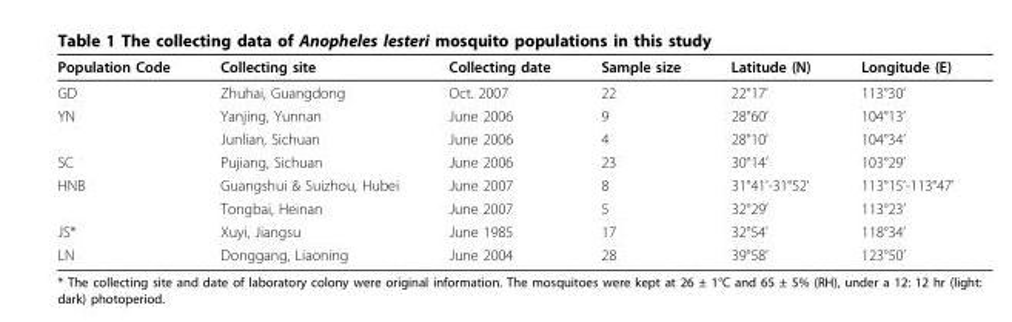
<table><thead><tr><td>Population Code</td><td>Collecting site</td><td>Collecting date</td><td>Sample size</td><td>Latitude (N)</td><td>Longitude (E)</td></tr></thead><tbody><tr><td>GD</td><td>Zhuhai, Guangdong</td><td>Oct. 2007</td><td>22</td><td>22°17’</td><td>113°30’</td></tr><tr><td rowspan="2">YN</td><td>Yanjing, Yunnan</td><td>June 2006</td><td>9</td><td>28°60’</td><td>104°13’</td></tr><tr><td>Junlian, Sichuan</td><td>June 2006</td><td>4</td><td>28°10’</td><td>104°34’</td></tr><tr><td>SC</td><td>Pujiang, Sichuan</td><td>June 2006</td><td>23</td><td>30°14’</td><td>103°29’</td></tr><tr><td rowspan="2">HNB</td><td>Guangshui &amp; Suizhou, Hubei</td><td>June 2007</td><td>8</td><td>31°41’-31°52’</td><td>113°15’-113°47’</td></tr><tr><td>Tongbai, Heinan</td><td>June 2007</td><td>5</td><td>32°29’</td><td>113°23’</td></tr><tr><td>JS*</td><td>Xuyi, Jiangsu</td><td>June 1985</td><td>17</td><td>32°54’</td><td>118°34’</td></tr><tr><td>LN</td><td>Donggang, Liaoning</td><td>June 2004</td><td>28</td><td>39°58’</td><td>123°50’</td></tr></tbody></table>